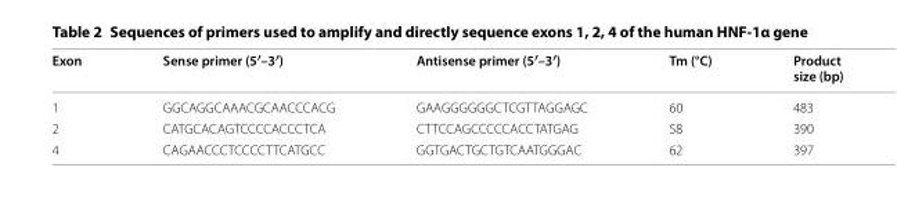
<table><thead><tr><td>Exon</td><td>Sense primer (5′–3′)</td><td>Antisense primer (5′–3′)</td><td>Tm (°C)</td><td>Product size (bp)</td></tr></thead><tbody><tr><td>1</td><td>GGCAGGCAAACGCAACCCACG</td><td>GAAGGGGGGCTCGTTAGGAGC</td><td>60</td><td>483</td></tr><tr><td>2</td><td>CATGCACAGTCCCCACCCTCA</td><td>CTTCCAGCCCCCACCTATGAG</td><td>58</td><td>390</td></tr><tr><td>4</td><td>CAGAACCCTCCCCTTCATGCC</td><td>GGTGACTGCTGTCAATGGGAC</td><td>62</td><td>397</td></tr></tbody></table>